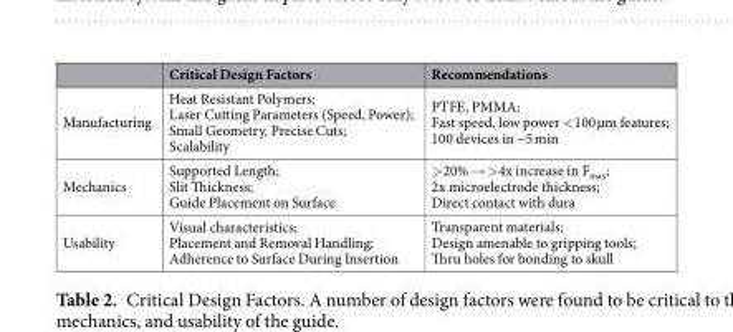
<table><thead><tr><td></td><td>Critical Design Factors</td><td>Recommendations</td></tr></thead><tbody><tr><td>Manufacturing</td><td>Heat Resistant Polymers; Laser Cutting Parameters (Speed, Power); Small Geometry, Precise Cuts; Scalability</td><td>PTFE, PMMA; Fast speed, low power &lt;100 µm features; 100 devices in ~5 min</td></tr><tr><td>Mechanics</td><td>Supported Length; Slit Thickness; Guide Placement on Surface</td><td>&gt;20% → &gt;4x increase in F<sub>max</sub>; 2x microelectrode thickness; Direct contact with dura</td></tr><tr><td>Usability</td><td>Visual characteristics; Placement and Removal Handling; Adherence to Surface During Insertion</td><td>Transparent materials; Design amenable to gripping tools; Thru holes for bonding to skull</td></tr></tbody></table>